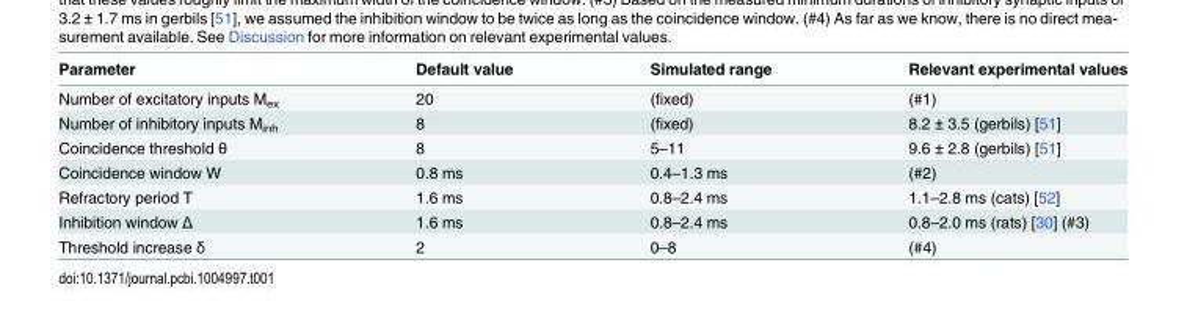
<table><thead><tr><td>Parameter</td><td>Default value</td><td>Simulated range</td><td>Relevant experimental values</td></tr></thead><tbody><tr><td>Number of excitatory inputs M<sub>ex</sub></td><td>20</td><td>(fixed)</td><td>(#1)</td></tr><tr><td>Number of inhibitory inputs M<sub>inh</sub></td><td>8</td><td>(fixed)</td><td>8.2 ± 3.5 (gerbils) [51]</td></tr><tr><td>Coincidence threshold θ</td><td>8</td><td>5–11</td><td>9.6 ± 2.8 (gerbils) [51]</td></tr><tr><td>Coincidence window W</td><td>0.8 ms</td><td>0.4–1.3 ms</td><td>(#2)</td></tr><tr><td>Refractory period T</td><td>1.6 ms</td><td>0.8–2.4 ms</td><td>1.1–2.8 ms (cats) [52]</td></tr><tr><td>Inhibition window Δ</td><td>1.6 ms</td><td>0.8–2.4 ms</td><td>0.8–2.0 ms (rats) [30] (#3)</td></tr><tr><td>Threshold increase δ</td><td>2</td><td>0–8</td><td>(#4)</td></tr></tbody></table>